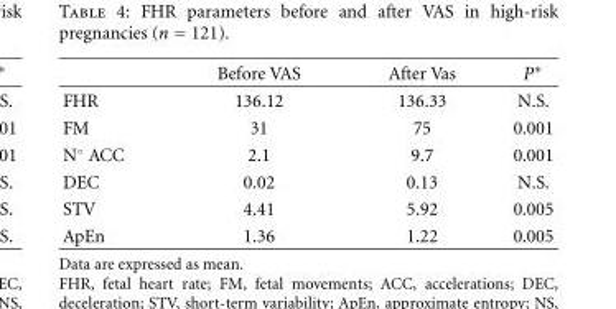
<table><thead><tr><td></td><td>Before VAS</td><td>After Vas</td><td>P∗</td></tr></thead><tbody><tr><td>FHR</td><td>136.12</td><td>136.33</td><td>N.S.</td></tr><tr><td>FM</td><td>31</td><td>75</td><td>0.001</td></tr><tr><td>N◦ ACC</td><td>2.1</td><td>9.7</td><td>0.001</td></tr><tr><td>DEC</td><td>0.02</td><td>0.13</td><td>N.S.</td></tr><tr><td>STV</td><td>4.41</td><td>5.92</td><td>0.005</td></tr><tr><td>ApEn</td><td>1.36</td><td>1.22</td><td>0.005</td></tr></tbody></table>